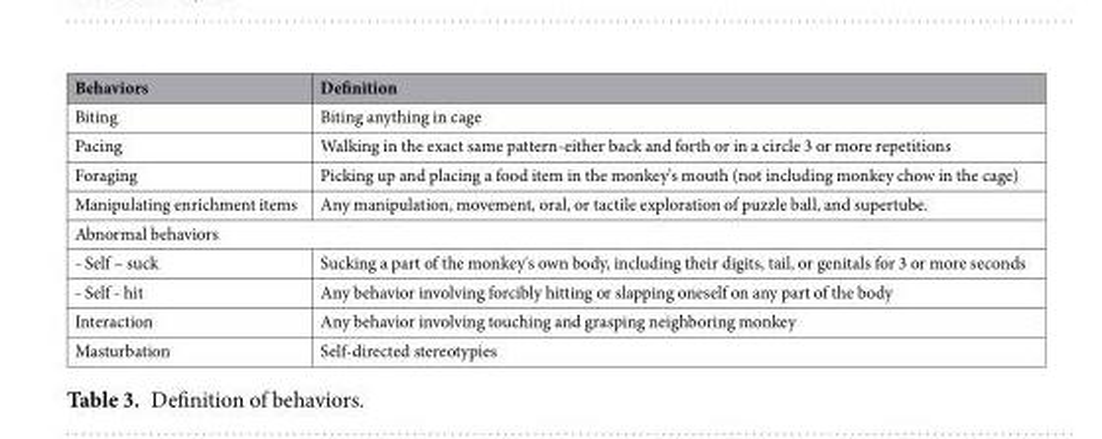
<table><thead><tr><td>Behaviors</td><td>Definition</td></tr></thead><tbody><tr><td>Biting</td><td>Biting anything in cage</td></tr><tr><td>Pacing</td><td>Walking in the exact same pattern-either back and forth or in a circle 3 or more repetitions</td></tr><tr><td>Foraging</td><td>Picking up and placing a food item in the monkey&#x27;s mouth (not including monkey chow in the cage)</td></tr><tr><td>Manipulating enrichment items</td><td>Any manipulation, movement, oral, or tactile exploration of puzzle ball, and supertube.</td></tr><tr><td colspan="2">Abnormal behaviors</td></tr><tr><td>- Self – suck</td><td>Sucking a part of the monkey&#x27;s own body, including their digits, tail, or genitals for 3 or more seconds</td></tr><tr><td>- Self - hit</td><td>Any behavior involving forcibly hitting or slapping oneself on any part of the body</td></tr><tr><td>Interaction</td><td>Any behavior involving touching and grasping neighboring monkey</td></tr><tr><td>Masturbation</td><td>Self-directed stereotypies</td></tr></tbody></table>